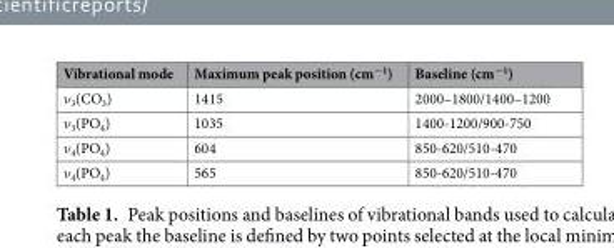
<table><thead><tr><td>Vibrational mode</td><td>Maximum peak position (cm<sup>−1</sup>)</td><td>Baseline (cm<sup>−1</sup>)</td></tr></thead><tbody><tr><td>ν<sub>3</sub>(CO<sub>3</sub>)</td><td>1415</td><td>2000–1800/1400–1200</td></tr><tr><td>ν<sub>3</sub>(PO<sub>4</sub>)</td><td>1035</td><td>1400-1200/900-750</td></tr><tr><td>ν<sub>4</sub>(PO<sub>4</sub>)</td><td>604</td><td>850-620/510-470</td></tr><tr><td>ν<sub>4</sub>(PO<sub>4</sub>)</td><td>565</td><td>850-620/510-470</td></tr></tbody></table>